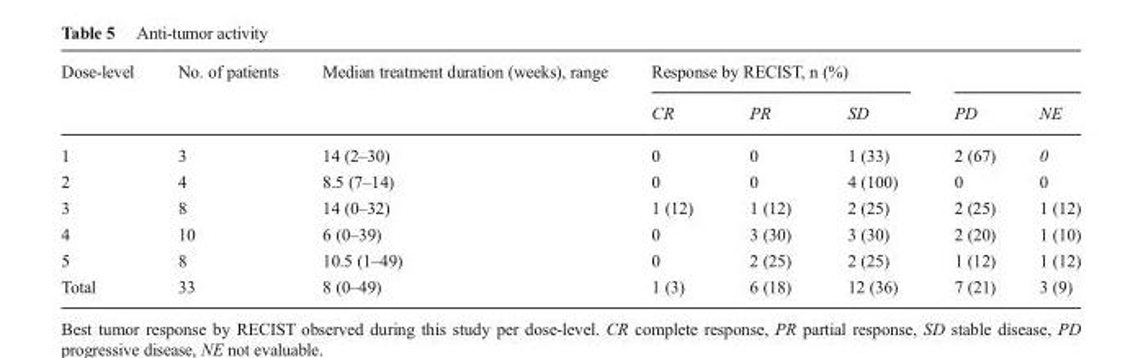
<table><thead><tr><td rowspan="2">Dose-level</td><td rowspan="2">No. of patients</td><td rowspan="2">Median treatment duration (weeks), range</td><td colspan="3">Response by RECIST, n (%)</td><td rowspan="2">PD</td><td rowspan="2">NE</td></tr><tr><td>CR</td><td>PR</td><td>SD</td></tr></thead><tbody><tr><td>1</td><td>3</td><td>14 (2–30)</td><td>0</td><td>0</td><td>1 (33)</td><td>2 (67)</td><td>0</td></tr><tr><td>2</td><td>4</td><td>8.5 (7–14)</td><td>0</td><td>0</td><td>4 (100)</td><td>0</td><td>0</td></tr><tr><td>3</td><td>8</td><td>14 (0–32)</td><td>1 (12)</td><td>1 (12)</td><td>2 (25)</td><td>2 (25)</td><td>1 (12)</td></tr><tr><td>4</td><td>10</td><td>6 (0–39)</td><td>0</td><td>3 (30)</td><td>3 (30)</td><td>2 (20)</td><td>1 (10)</td></tr><tr><td>5</td><td>8</td><td>10.5 (1–49)</td><td>0</td><td>2 (25)</td><td>2 (25)</td><td>1 (12)</td><td>1 (12)</td></tr><tr><td>Total</td><td>33</td><td>8 (0–49)</td><td>1 (3)</td><td>6 (18)</td><td>12 (36)</td><td>7 (21)</td><td>3 (9)</td></tr></tbody></table>